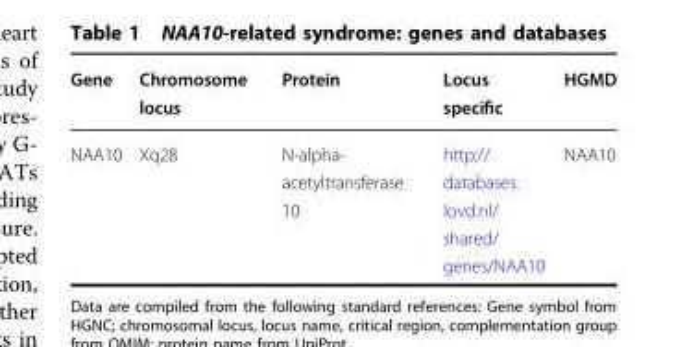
<table><thead><tr><td>Gene</td><td>Chromosome locus</td><td>Protein</td><td>Locus specific</td><td>HGMD</td></tr></thead><tbody><tr><td>NAA10</td><td>Xq28</td><td>N-alpha- acetyltransferase 10</td><td>http:// databases. lovd.nl/ shared/ genes/NAA10</td><td>NAA10</td></tr></tbody></table>